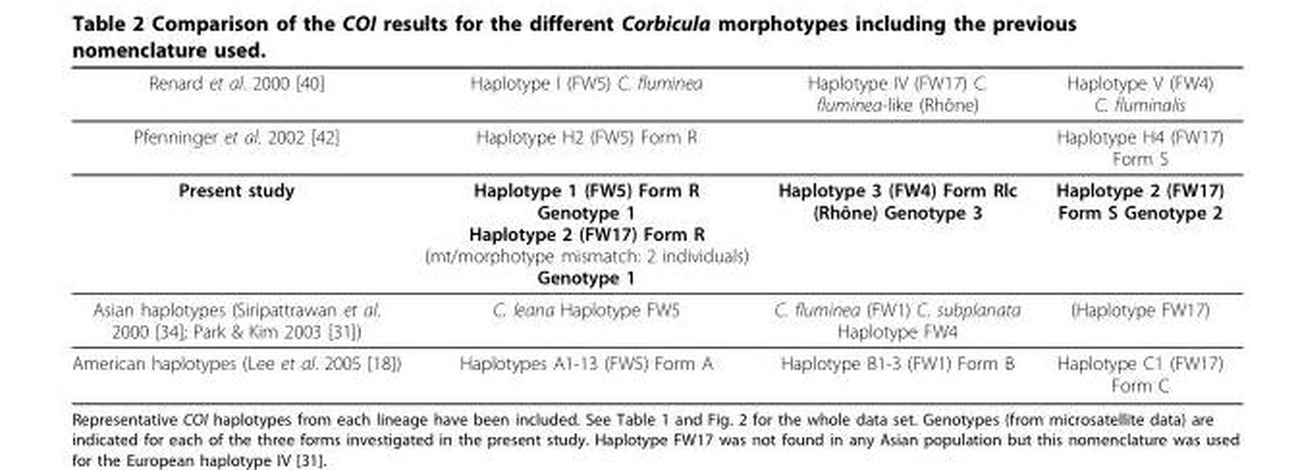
<table><thead><tr><td>Renard et al. 2000 [40]</td><td>Haplotype I (FW5) C. fluminea</td><td>Haplotype IV (FW17) C. fluminea-like (Rhône)</td><td>Haplotype V (FW4) C. fluminalis</td></tr></thead><tbody><tr><td>Pfenninger et al. 2002 [42]</td><td>Haplotype H2 (FW5) Form R</td><td></td><td>Haplotype H4 (FW17) Form S</td></tr><tr><td>Present study</td><td>Haplotype 1 (FW5) Form R Genotype 1 Haplotype 2 (FW17) Form R (mt/morphotype mismatch: 2 individuals) Genotype 1</td><td>Haplotype 3 (FW4) Form Rlc (Rhône) Genotype 3</td><td>Haplotype 2 (FW17) Form S Genotype 2</td></tr><tr><td>Asian haplotypes (Siripattrawan et al. 2000 [34]; Park &amp; Kim 2003 [31])</td><td>C. leana Haplotype FW5</td><td>C. fluminea (FW1) C. subplanata Haplotype FW4</td><td>(Haplotype FW17)</td></tr><tr><td>American haplotypes (Lee et al. 2005 [18])</td><td>Haplotypes A1-13 (FW5) Form A</td><td>Haplotype B1-3 (FW1) Form B</td><td>Haplotype C1 (FW17) Form C</td></tr></tbody></table>